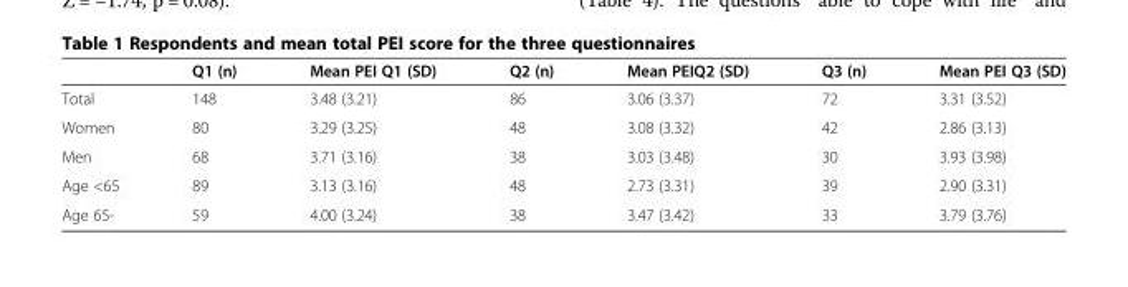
<table><thead><tr><td></td><td>Q1 (n)</td><td>Mean PEI Q1 (SD)</td><td>Q2 (n)</td><td>Mean PEIQ2 (SD)</td><td>Q3 (n)</td><td>Mean PEI Q3 (SD)</td></tr></thead><tbody><tr><td>Total</td><td>148</td><td>3.48 (3.21)</td><td>86</td><td>3.06 (3.37)</td><td>72</td><td>3.31 (3.52)</td></tr><tr><td>Women</td><td>80</td><td>3.29 (3.25)</td><td>48</td><td>3.08 (3.32)</td><td>42</td><td>2.86 (3.13)</td></tr><tr><td>Men</td><td>68</td><td>3.71 (3.16)</td><td>38</td><td>3.03 (3.48)</td><td>30</td><td>3.93 (3.98)</td></tr><tr><td>Age &lt;65</td><td>89</td><td>3.13 (3.16)</td><td>48</td><td>2.73 (3.31)</td><td>39</td><td>2.90 (3.31)</td></tr><tr><td>Age 65-</td><td>59</td><td>4.00 (3.24)</td><td>38</td><td>3.47 (3.42)</td><td>33</td><td>3.79 (3.76)</td></tr></tbody></table>